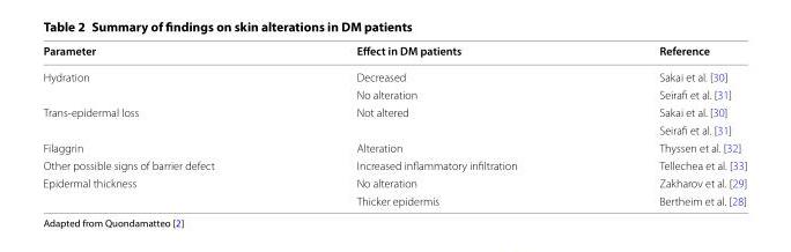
<table><thead><tr><td>Parameter</td><td>Effect in DM patients</td><td>Reference</td></tr></thead><tbody><tr><td rowspan="2">Hydration</td><td>Decreased</td><td>Sakai et al. [30]</td></tr><tr><td>No alteration</td><td>Seirafi et al. [31]</td></tr><tr><td rowspan="2">Trans-epidermal loss</td><td rowspan="2">Not altered</td><td>Sakai et al. [30]</td></tr><tr><td>Seirafi et al. [31]</td></tr><tr><td>Filaggrin</td><td>Alteration</td><td>Thyssen et al. [32]</td></tr><tr><td>Other possible signs of barrier defect</td><td>Increased inflammatory infiltration</td><td>Tellechea et al. [33]</td></tr><tr><td rowspan="2">Epidermal thickness</td><td>No alteration</td><td>Zakharov et al. [29]</td></tr><tr><td>Thicker epidermis</td><td>Bertheim et al. [28]</td></tr></tbody></table>